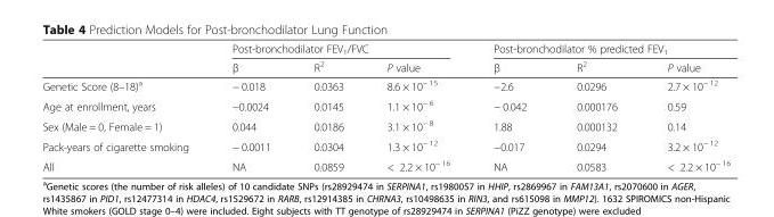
<table><thead><tr><td rowspan="2"></td><td colspan="3">Post-bronchodilator FEV<sub>1</sub>/FVC</td><td colspan="3">Post-bronchodilator % predicted FEV<sub>1</sub></td></tr><tr><td>β</td><td>R<sup>2</sup></td><td>P value</td><td>β</td><td>R<sup>2</sup></td><td>P value</td></tr></thead><tbody><tr><td>Genetic Score (8–18)<sup>a</sup></td><td>− 0.018</td><td>0.0363</td><td>8.6 × 10<sup>− 15</sup></td><td>−2.6</td><td>0.0296</td><td>2.7 × 10<sup>− 12</sup></td></tr><tr><td>Age at enrollment, years</td><td>−0.0024</td><td>0.0145</td><td>1.1 × 10<sup>− 6</sup></td><td>− 0.042</td><td>0.000176</td><td>0.59</td></tr><tr><td>Sex (Male = 0, Female = 1)</td><td>0.044</td><td>0.0186</td><td>3.1 × 10<sup>− 8</sup></td><td>1.88</td><td>0.000132</td><td>0.14</td></tr><tr><td>Pack-years of cigarette smoking</td><td>− 0.0011</td><td>0.0304</td><td>1.3 × 10<sup>− 12</sup></td><td>−0.017</td><td>0.0294</td><td>3.2 × 10<sup>− 12</sup></td></tr><tr><td>All</td><td>NA</td><td>0.0859</td><td>&lt; 2.2 × 10<sup>− 16</sup></td><td>NA</td><td>0.0583</td><td>&lt; 2.2 × 10<sup>− 16</sup></td></tr></tbody></table>